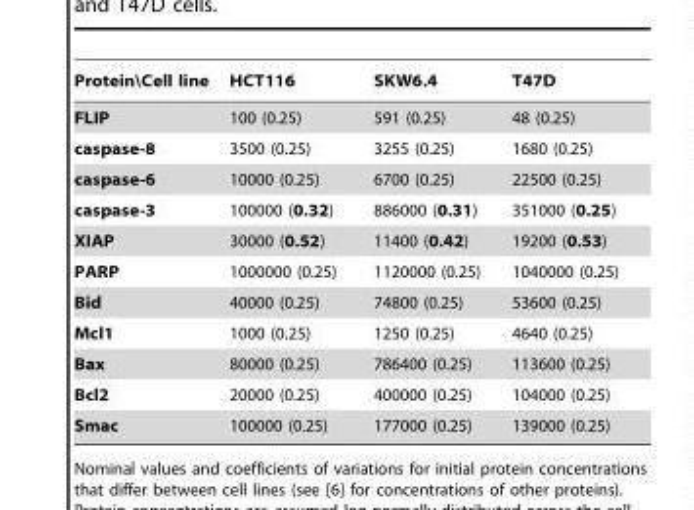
<table><thead><tr><td>Protein\Cell line</td><td>HCT116</td><td>SKW6.4</td><td>T47D</td></tr></thead><tbody><tr><td>FLIP</td><td>100 (0.25)</td><td>591 (0.25)</td><td>48 (0.25)</td></tr><tr><td>caspase-8</td><td>3500 (0.25)</td><td>3255 (0.25)</td><td>1680 (0.25)</td></tr><tr><td>caspase-6</td><td>10000 (0.25)</td><td>6700 (0.25)</td><td>22500 (0.25)</td></tr><tr><td>caspase-3</td><td>100000 (0.32)</td><td>886000 (0.31)</td><td>351000 (0.25)</td></tr><tr><td>XIAP</td><td>30000 (0.52)</td><td>11400 (0.42)</td><td>19200 (0.53)</td></tr><tr><td>PARP</td><td>1000000 (0.25)</td><td>1120000 (0.25)</td><td>1040000 (0.25)</td></tr><tr><td>Bid</td><td>40000 (0.25)</td><td>74800 (0.25)</td><td>53600 (0.25)</td></tr><tr><td>Mcl1</td><td>1000 (0.25)</td><td>1250 (0.25)</td><td>4640 (0.25)</td></tr><tr><td>Bax</td><td>80000 (0.25)</td><td>786400 (0.25)</td><td>113600 (0.25)</td></tr><tr><td>Bcl2</td><td>20000 (0.25)</td><td>400000 (0.25)</td><td>104000 (0.25)</td></tr><tr><td>Smac</td><td>100000 (0.25)</td><td>177000 (0.25)</td><td>139000 (0.25)</td></tr></tbody></table>